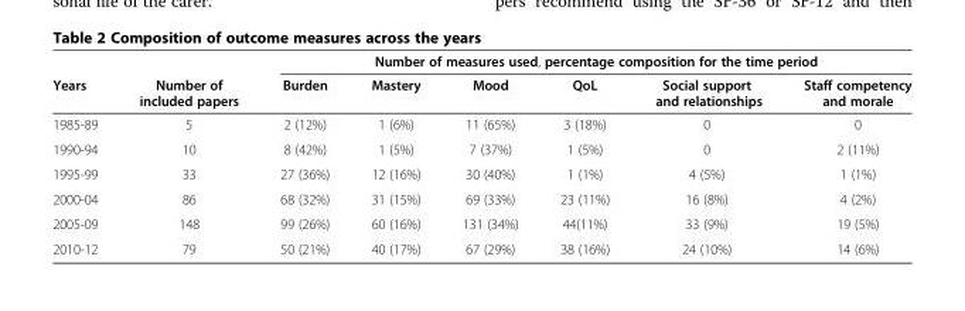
<table><thead><tr><td rowspan="2">Years</td><td rowspan="2">Number of included papers</td><td colspan="6">Number of measures used, percentage composition for the time period</td></tr><tr><td>Burden</td><td>Mastery</td><td>Mood</td><td>QoL</td><td>Social support and relationships</td><td>Staff competency and morale</td></tr></thead><tbody><tr><td>1985-89</td><td>5</td><td>2 (12%)</td><td>1 (6%)</td><td>11 (65%)</td><td>3 (18%)</td><td>0</td><td>0</td></tr><tr><td>1990-94</td><td>10</td><td>8 (42%)</td><td>1 (5%)</td><td>7 (37%)</td><td>1 (5%)</td><td>0</td><td>2 (11%)</td></tr><tr><td>1995-99</td><td>33</td><td>27 (36%)</td><td>12 (16%)</td><td>30 (40%)</td><td>1 (1%)</td><td>4 (5%)</td><td>1 (1%)</td></tr><tr><td>2000-04</td><td>86</td><td>68 (32%)</td><td>31 (15%)</td><td>69 (33%)</td><td>23 (11%)</td><td>16 (8%)</td><td>4 (2%)</td></tr><tr><td>2005-09</td><td>148</td><td>99 (26%)</td><td>60 (16%)</td><td>131 (34%)</td><td>44(11%)</td><td>33 (9%)</td><td>19 (5%)</td></tr><tr><td>2010-12</td><td>79</td><td>50 (21%)</td><td>40 (17%)</td><td>67 (29%)</td><td>38 (16%)</td><td>24 (10%)</td><td>14 (6%)</td></tr></tbody></table>